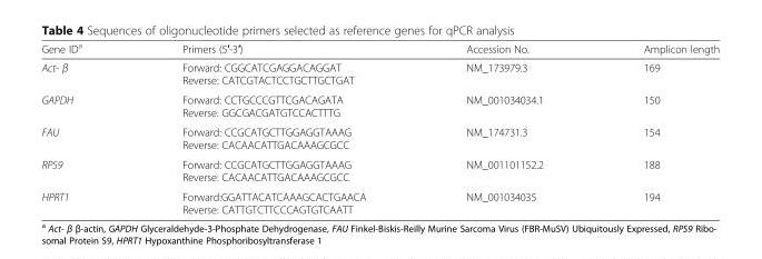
<table><thead><tr><td>Gene ID<sup>a</sup></td><td>Primers (5′-3′)</td><td>Accession No.</td><td>Amplicon length</td></tr></thead><tbody><tr><td>Act- β</td><td>Forward: CGGCATCGAGGACAGGAT Reverse: CATCGTACTCCTGCTTGCTGAT</td><td>NM_173979.3</td><td>169</td></tr><tr><td>GAPDH</td><td>Forward: CCTGCCCGTTCGACAGATA Reverse: GGCGACGATGTCCACTTTG</td><td>NM_001034034.1</td><td>150</td></tr><tr><td>FAU</td><td>Forward: CCGCATGCTTGGAGGTAAAG Reverse: CACAACATTGACAAAGCGCC</td><td>NM_174731.3</td><td>154</td></tr><tr><td>RPS9</td><td>Forward: CCGCATGCTTGGAGGTAAAG Reverse: CACAACATTGACAAAGCGCC</td><td>NM_001101152.2</td><td>188</td></tr><tr><td>HPRT1</td><td>Forward:GGATTACATCAAAGCACTGAACA Reverse: CATTGTCTTCCCAGTGTCAATT</td><td>NM_001034035</td><td>194</td></tr></tbody></table>